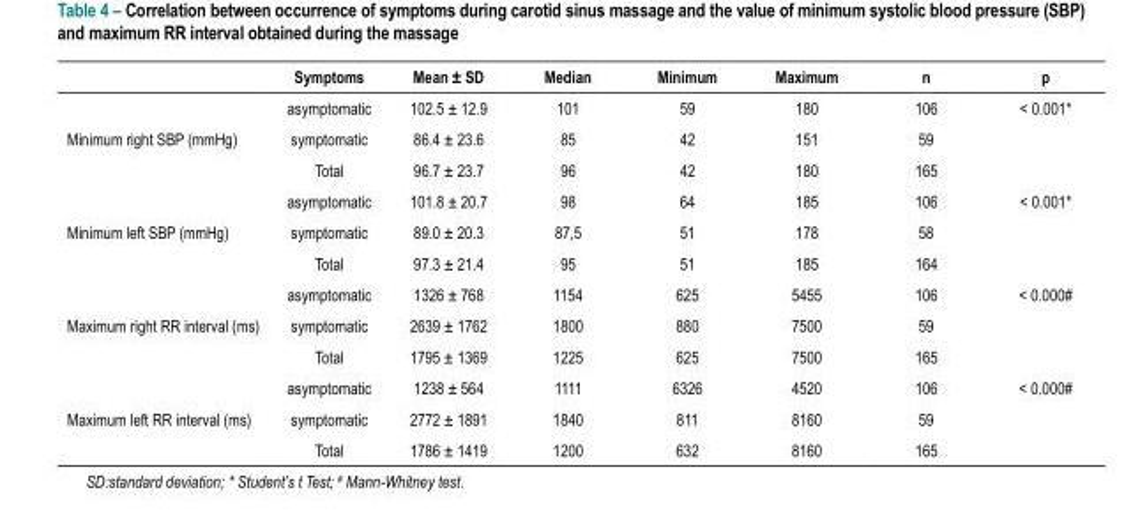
<table><thead><tr><td></td><td>Symptoms</td><td>Mean ± SD</td><td>Median</td><td>Minimum</td><td>Maximum</td><td>n</td><td>p</td></tr></thead><tbody><tr><td rowspan="3">Minimum right SBP (mmHg)</td><td>asymptomatic</td><td>102.5 ± 12.9</td><td>101</td><td>59</td><td>180</td><td>106</td><td>&lt; 0.001*</td></tr><tr><td>symptomatic</td><td>86.4 ± 23.6</td><td>85</td><td>42</td><td>151</td><td>59</td><td></td></tr><tr><td>Total</td><td>96.7 ± 23.7</td><td>96</td><td>42</td><td>180</td><td>165</td><td></td></tr><tr><td rowspan="3">Minimum left SBP (mmHg)</td><td>asymptomatic</td><td>101.8 ± 20.7</td><td>98</td><td>64</td><td>185</td><td>106</td><td>&lt; 0.001*</td></tr><tr><td>symptomatic</td><td>89.0 ± 20.3</td><td>87,5</td><td>51</td><td>178</td><td>58</td><td></td></tr><tr><td>Total</td><td>97.3 ± 21.4</td><td>95</td><td>51</td><td>185</td><td>164</td><td></td></tr><tr><td rowspan="3">Maximum right RR interval (ms)</td><td>asymptomatic</td><td>1326 ± 768</td><td>1154</td><td>625</td><td>5455</td><td>106</td><td>&lt; 0.000#</td></tr><tr><td>symptomatic</td><td>2639 ± 1762</td><td>1800</td><td>880</td><td>7500</td><td>59</td><td></td></tr><tr><td>Total</td><td>1795 ± 1369</td><td>1225</td><td>625</td><td>7500</td><td>165</td><td></td></tr><tr><td rowspan="3">Maximum left RR interval (ms)</td><td>asymptomatic</td><td>1238 ± 564</td><td>1111</td><td>6326</td><td>4520</td><td>106</td><td>&lt; 0.000#</td></tr><tr><td>symptomatic</td><td>2772 ± 1891</td><td>1840</td><td>811</td><td>8160</td><td>59</td><td></td></tr><tr><td>Total</td><td>1786 ± 1419</td><td>1200</td><td>632</td><td>8160</td><td>165</td><td></td></tr></tbody></table>